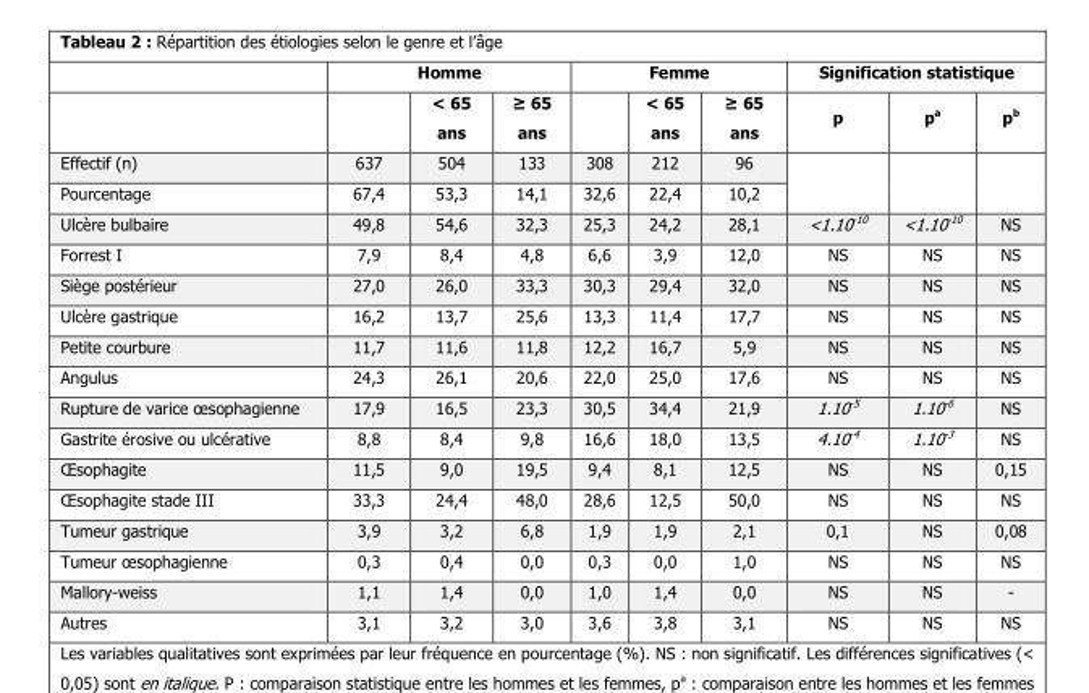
<table><thead><tr><td rowspan="2"></td><td colspan="3">Homme</td><td colspan="3">Femme</td><td colspan="3">Signification statistique</td></tr><tr><td></td><td>&lt; 65 ans</td><td>≥ 65 ans</td><td></td><td>&lt; 65 ans</td><td>≥ 65 ans</td><td>p</td><td>p<sup>a</sup></td><td>p<sup>b</sup></td></tr></thead><tbody><tr><td>Effectif (n)</td><td>637</td><td>504</td><td>133</td><td>308</td><td>212</td><td>96</td><td rowspan="2"></td><td rowspan="2"></td><td rowspan="2"></td></tr><tr><td>Pourcentage</td><td>67,4</td><td>53,3</td><td>14,1</td><td>32,6</td><td>22,4</td><td>10,2</td></tr><tr><td>Ulcère bulbaire</td><td>49,8</td><td>54,6</td><td>32,3</td><td>25,3</td><td>24,2</td><td>28,1</td><td>&lt;1.10<sup>-10</sup></td><td>&lt;1.10<sup>-10</sup></td><td>NS</td></tr><tr><td>Forrest I</td><td>7,9</td><td>8,4</td><td>4,8</td><td>6,6</td><td>3,9</td><td>12,0</td><td>NS</td><td>NS</td><td>NS</td></tr><tr><td>Siège postérieur</td><td>27,0</td><td>26,0</td><td>33,3</td><td>30,3</td><td>29,4</td><td>32,0</td><td>NS</td><td>NS</td><td>NS</td></tr><tr><td>Ulcère gastrique</td><td>16,2</td><td>13,7</td><td>25,6</td><td>13,3</td><td>11,4</td><td>17,7</td><td>NS</td><td>NS</td><td>NS</td></tr><tr><td>Petite courbure</td><td>11,7</td><td>11,6</td><td>11,8</td><td>12,2</td><td>16,7</td><td>5,9</td><td>NS</td><td>NS</td><td>NS</td></tr><tr><td>Angulus</td><td>24,3</td><td>26,1</td><td>20,6</td><td>22,0</td><td>25,0</td><td>17,6</td><td>NS</td><td>NS</td><td>NS</td></tr><tr><td>Rupture de varice œsophagienne</td><td>17,9</td><td>16,5</td><td>23,3</td><td>30,5</td><td>34,4</td><td>21,9</td><td>1.10<sup>-5</sup></td><td>1.10<sup>-6</sup></td><td>NS</td></tr><tr><td>Gastrite érosive ou ulcérative</td><td>8,8</td><td>8,4</td><td>9,8</td><td>16,6</td><td>18,0</td><td>13,5</td><td>4.10<sup>-4</sup></td><td>1.10<sup>-3</sup></td><td>NS</td></tr><tr><td>Œsophagite</td><td>11,5</td><td>9,0</td><td>19,5</td><td>9,4</td><td>8,1</td><td>12,5</td><td>NS</td><td>NS</td><td>0,15</td></tr><tr><td>Œsophagite stade III</td><td>33,3</td><td>24,4</td><td>48,0</td><td>28,6</td><td>12,5</td><td>50,0</td><td>NS</td><td>NS</td><td>NS</td></tr><tr><td>Tumeur gastrique</td><td>3,9</td><td>3,2</td><td>6,8</td><td>1,9</td><td>1,9</td><td>2,1</td><td>0,1</td><td>NS</td><td>0,08</td></tr><tr><td>Tumeur œsophagienne</td><td>0,3</td><td>0,4</td><td>0,0</td><td>0,3</td><td>0,0</td><td>1,0</td><td>NS</td><td>NS</td><td>NS</td></tr><tr><td>Mallory-weiss</td><td>1,1</td><td>1,4</td><td>0,0</td><td>1,0</td><td>1,4</td><td>0,0</td><td>NS</td><td>NS</td><td>-</td></tr><tr><td>Autres</td><td>3,1</td><td>3,2</td><td>3,0</td><td>3,6</td><td>3,8</td><td>3,1</td><td>NS</td><td>NS</td><td>NS</td></tr></tbody></table>